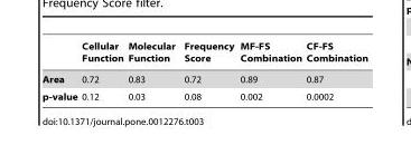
<table><thead><tr><td></td><td>Cellular Function</td><td>Molecular Function</td><td>Frequency Score</td><td>MF-FS Combination</td><td>CF-FS Combination</td></tr></thead><tbody><tr><td>Area</td><td>0.72</td><td>0.83</td><td>0.72</td><td>0.89</td><td>0.87</td></tr><tr><td>p-value</td><td>0.12</td><td>0.03</td><td>0.08</td><td>0.002</td><td>0.0002</td></tr></tbody></table>